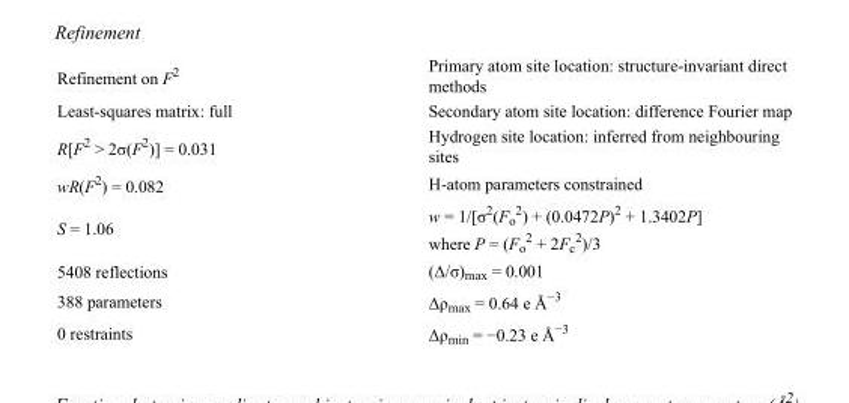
<table><tbody><tr><td>Refinement on F<sup>2</sup></td><td>Primary atom site location: structure-invariant direct methods</td></tr><tr><td>Least-squares matrix: full</td><td>Secondary atom site location: difference Fourier map</td></tr><tr><td>R[F<sup>2</sup> &gt; 2σ(F<sup>2</sup>)] = 0.031</td><td>Hydrogen site location: inferred from neighbouring sites</td></tr><tr><td>wR(F<sup>2</sup>) = 0.082</td><td>H-atom parameters constrained</td></tr><tr><td>S = 1.06</td><td>w = 1/[σ<sup>2</sup>(F<sub>o</sub> <sup>2</sup>) + (0.0472P)<sup>2</sup> + 1.3402P] where P = (F<sub>o</sub> <sup>2</sup> + 2F<sub>c</sub> <sup>2</sup>)/3</td></tr><tr><td>5408 reflections</td><td>(Δ/σ)<sub>max</sub> = 0.001</td></tr><tr><td>388 parameters</td><td>Δρ<sub>max</sub> = 0.64 e Å<sup>−3</sup></td></tr><tr><td>0 restraints</td><td>Δρ<sub>min</sub> = −0.23 e Å<sup>−3</sup></td></tr></tbody></table>